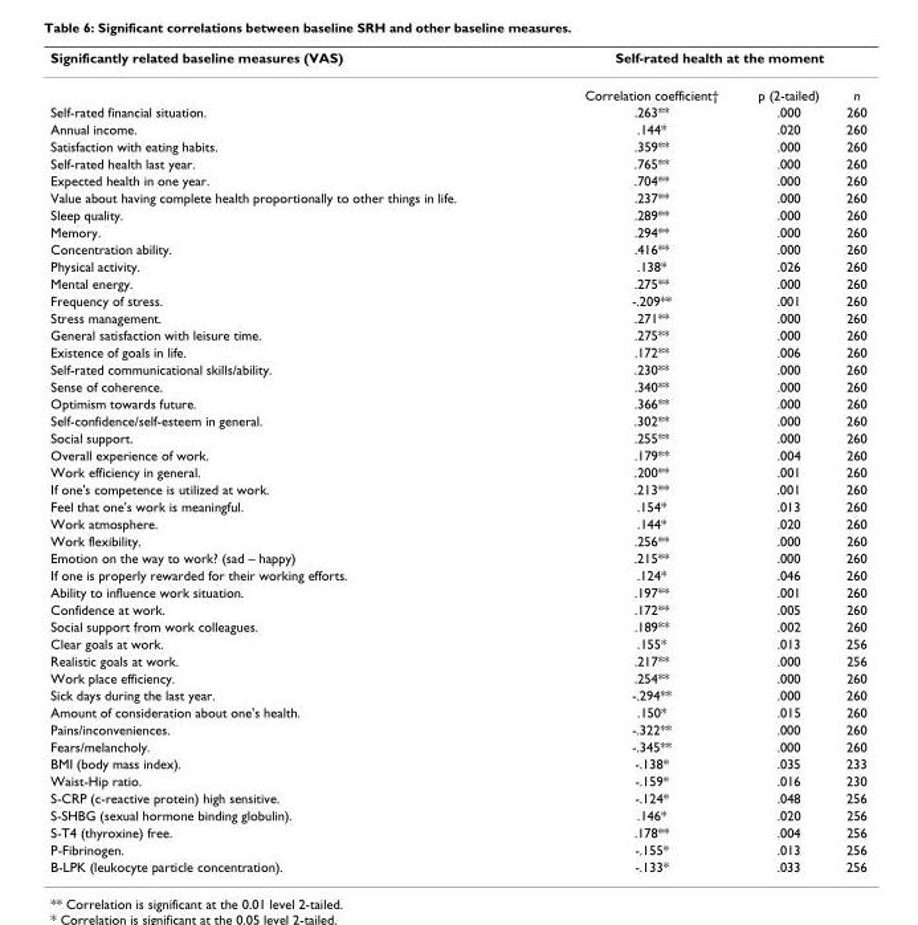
<table><thead><tr><td rowspan="2">Significantly related baseline measures (VAS)</td><td colspan="3">Self-rated health at the moment</td></tr><tr><td>Correlation coefficient†</td><td>p (2-tailed)</td><td>n</td></tr></thead><tbody><tr><td>Self-rated financial situation.</td><td>.263**</td><td>.000</td><td>260</td></tr><tr><td>Annual income.</td><td>.144*</td><td>.020</td><td>260</td></tr><tr><td>Satisfaction with eating habits.</td><td>.359**</td><td>.000</td><td>260</td></tr><tr><td>Self-rated health last year.</td><td>.765**</td><td>.000</td><td>260</td></tr><tr><td>Expected health in one year.</td><td>.704**</td><td>.000</td><td>260</td></tr><tr><td>Value about having complete health proportionally to other things in life.</td><td>.237**</td><td>.000</td><td>260</td></tr><tr><td>Sleep quality.</td><td>.289**</td><td>.000</td><td>260</td></tr><tr><td>Memory.</td><td>.294**</td><td>.000</td><td>260</td></tr><tr><td>Concentration ability.</td><td>.416**</td><td>.000</td><td>260</td></tr><tr><td>Physical activity.</td><td>.138*</td><td>.026</td><td>260</td></tr><tr><td>Mental energy.</td><td>.275**</td><td>.000</td><td>260</td></tr><tr><td>Frequency of stress.</td><td>-.209**</td><td>.001</td><td>260</td></tr><tr><td>Stress management.</td><td>.271**</td><td>.000</td><td>260</td></tr><tr><td>General satisfaction with leisure time.</td><td>.275**</td><td>.000</td><td>260</td></tr><tr><td>Existence of goals in life.</td><td>.172**</td><td>.006</td><td>260</td></tr><tr><td>Self-rated communicational skills/ability.</td><td>.230**</td><td>.000</td><td>260</td></tr><tr><td>Sense of coherence.</td><td>.340**</td><td>.000</td><td>260</td></tr><tr><td>Optimism towards future.</td><td>.366**</td><td>.000</td><td>260</td></tr><tr><td>Self-confidence/self-esteem in general.</td><td>.302**</td><td>.000</td><td>260</td></tr><tr><td>Social support.</td><td>.255**</td><td>.000</td><td>260</td></tr><tr><td>Overall experience of work.</td><td>.179**</td><td>.004</td><td>260</td></tr><tr><td>Work efficiency in general.</td><td>.200**</td><td>.001</td><td>260</td></tr><tr><td>If one&#x27;s competence is utilized at work.</td><td>.213**</td><td>.001</td><td>260</td></tr><tr><td>Feel that one&#x27;s work is meaningful.</td><td>.154*</td><td>.013</td><td>260</td></tr><tr><td>Work atmosphere.</td><td>.144*</td><td>.020</td><td>260</td></tr><tr><td>Work flexibility.</td><td>.256**</td><td>.000</td><td>260</td></tr><tr><td>Emotion on the way to work? (sad – happy)</td><td>.215**</td><td>.000</td><td>260</td></tr><tr><td>If one is properly rewarded for their working efforts.</td><td>.124*</td><td>.046</td><td>260</td></tr><tr><td>Ability to influence work situation.</td><td>.197**</td><td>.001</td><td>260</td></tr><tr><td>Confidence at work.</td><td>.172**</td><td>.005</td><td>260</td></tr><tr><td>Social support from work colleagues.</td><td>.189**</td><td>.002</td><td>260</td></tr><tr><td>Clear goals at work.</td><td>.155*</td><td>.013</td><td>256</td></tr><tr><td>Realistic goals at work.</td><td>.217**</td><td>.000</td><td>256</td></tr><tr><td>Work place efficiency.</td><td>.254**</td><td>.000</td><td>260</td></tr><tr><td>Sick days during the last year.</td><td>-.294**</td><td>.000</td><td>260</td></tr><tr><td>Amount of consideration about one&#x27;s health.</td><td>.150*</td><td>.015</td><td>260</td></tr><tr><td>Pains/inconveniences.</td><td>-.322**</td><td>.000</td><td>260</td></tr><tr><td>Fears/melancholy.</td><td>-.345**</td><td>.000</td><td>260</td></tr><tr><td>BMI (body mass index).</td><td>-.138*</td><td>.035</td><td>233</td></tr><tr><td>Waist-Hip ratio.</td><td>-.159*</td><td>.016</td><td>230</td></tr><tr><td>S-CRP (c-reactive protein) high sensitive.</td><td>-.124*</td><td>.048</td><td>256</td></tr><tr><td>S-SHBG (sexual hormone binding globulin).</td><td>.146*</td><td>.020</td><td>256</td></tr><tr><td>S-T4 (thyroxine) free.</td><td>.178**</td><td>.004</td><td>256</td></tr><tr><td>P-Fibrinogen.</td><td>-.155*</td><td>.013</td><td>256</td></tr><tr><td>B-LPK (leukocyte particle concentration).</td><td>-.133*</td><td>.033</td><td>256</td></tr></tbody></table>